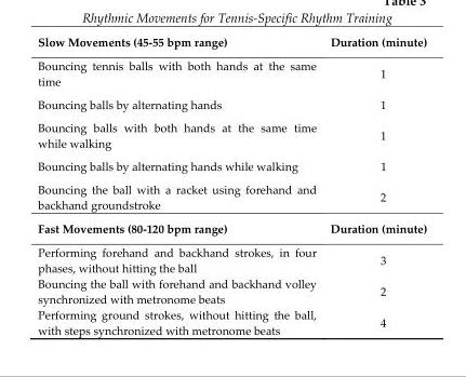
<table><tbody><tr><td>Slow Movements (45-55 bpm range)</td><td>Duration (minute)</td></tr><tr><td>Bouncing tennis balls with both hands at the same time</td><td>1</td></tr><tr><td>Bouncing balls by alternating hands</td><td>1</td></tr><tr><td>Bouncing balls with both hands at the same time while walking</td><td>1</td></tr><tr><td>Bouncing balls by alternating hands while walking</td><td>1</td></tr><tr><td>Bouncing the ball with a racket using forehand and backhand groundstroke</td><td>2</td></tr><tr><td>Fast Movements (80-120 bpm range)</td><td>Duration (minute)</td></tr><tr><td>Performing forehand and backhand strokes, in four phases, without hitting the ball</td><td>3</td></tr><tr><td>Bouncing the ball with forehand and backhand volley synchronized with metronome beats</td><td>2</td></tr><tr><td>Performing ground strokes, without hitting the ball, with steps synchronized with metronome beats</td><td>4</td></tr></tbody></table>